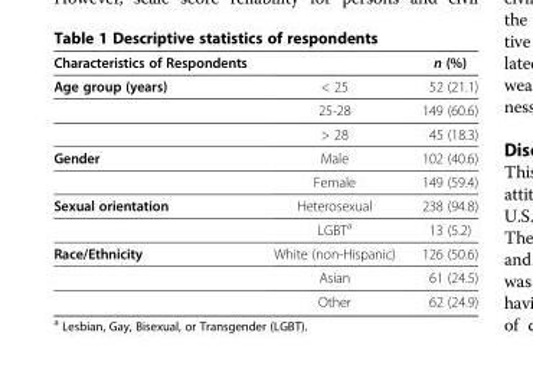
<table><thead><tr><td>Characteristics of Respondents</td><td></td><td>n (%)</td></tr></thead><tbody><tr><td rowspan="3">Age group (years)</td><td>&lt; 25</td><td>52 (21.1)</td></tr><tr><td>25-28</td><td>149 (60.6)</td></tr><tr><td>&gt; 28</td><td>45 (18.3)</td></tr><tr><td rowspan="2">Gender</td><td>Male</td><td>102 (40.6)</td></tr><tr><td>Female</td><td>149 (59.4)</td></tr><tr><td rowspan="2">Sexual orientation</td><td>Heterosexual</td><td>238 (94.8)</td></tr><tr><td>LGBT<sup>a</sup></td><td>13 (5.2)</td></tr><tr><td rowspan="3">Race/Ethnicity</td><td>White (non-Hispanic)</td><td>126 (50.6)</td></tr><tr><td>Asian</td><td>61 (24.5)</td></tr><tr><td>Other</td><td>62 (24.9)</td></tr></tbody></table>